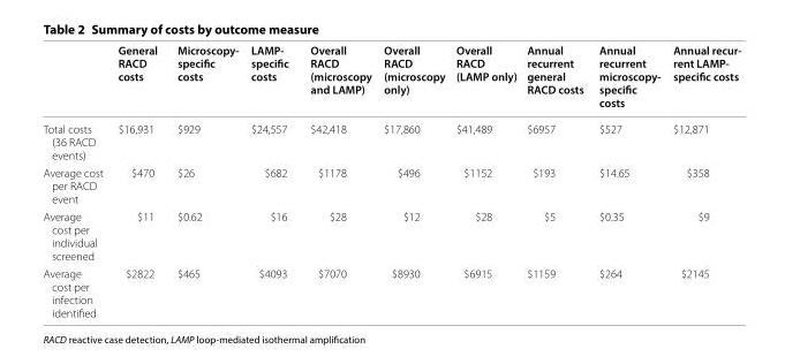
<table><thead><tr><td></td><td>General RACD costs</td><td>Microscopy‑ specific costs</td><td>LAMP‑ specific costs</td><td>Overall RACD (microscopy and LAMP)</td><td>Overall RACD (microscopy only)</td><td>Overall RACD (LAMP only)</td><td>Annual recurrent general RACD costs</td><td>Annual recurrent microscopy‑ specific costs</td><td>Annual recur‑ rent LAMP‑ specific costs</td></tr></thead><tbody><tr><td>Total costs (36 RACD events)</td><td>$16,931</td><td>$929</td><td>$24,557</td><td>$42,418</td><td>$17,860</td><td>$41,489</td><td>$6957</td><td>$527</td><td>$12,871</td></tr><tr><td>Average cost per RACD event</td><td>$470</td><td>$26</td><td>$682</td><td>$1178</td><td>$496</td><td>$1152</td><td>$193</td><td>$14.65</td><td>$358</td></tr><tr><td>Average cost per individual screened</td><td>$11</td><td>$0.62</td><td>$16</td><td>$28</td><td>$12</td><td>$28</td><td>$5</td><td>$0.35</td><td>$9</td></tr><tr><td>Average cost per infection identified</td><td>$2822</td><td>$465</td><td>$4093</td><td>$7070</td><td>$8930</td><td>$6915</td><td>$1159</td><td>$264</td><td>$2145</td></tr></tbody></table>